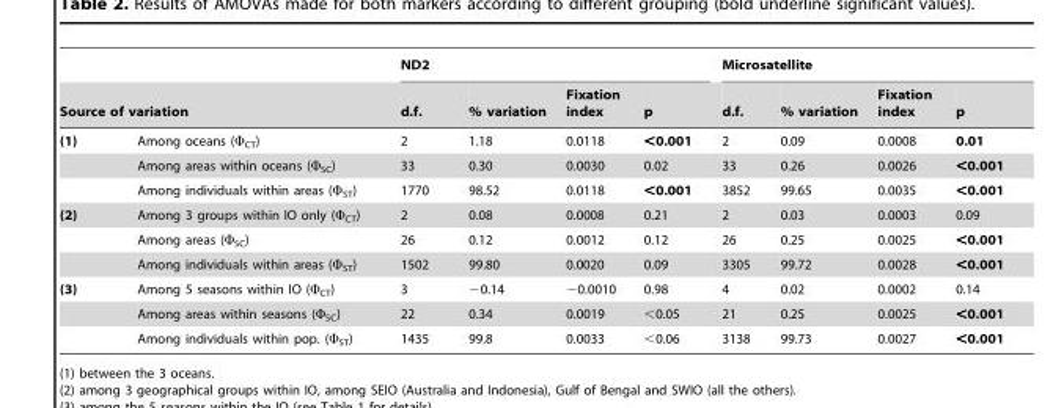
<table><thead><tr><td></td><td></td><td colspan="4">ND2</td><td colspan="4">Microsatellite</td></tr><tr><td colspan="2">Source of variation</td><td>d.f.</td><td>% variation</td><td>Fixation index</td><td>p</td><td>d.f.</td><td>% variation</td><td>Fixation index</td><td>p</td></tr></thead><tbody><tr><td rowspan="3">(1)</td><td>Among oceans (Φ<sub>CT</sub>)</td><td>2</td><td>1.18</td><td>0.0118</td><td>&lt;0.001</td><td>2</td><td>0.09</td><td>0.0008</td><td>0.01</td></tr><tr><td>Among areas within oceans (Φ<sub>SC</sub>)</td><td>33</td><td>0.30</td><td>0.0030</td><td>0.02</td><td>33</td><td>0.26</td><td>0.0026</td><td>&lt;0.001</td></tr><tr><td>Among individuals within areas (Φ<sub>ST</sub>)</td><td>1770</td><td>98.52</td><td>0.0118</td><td>&lt;0.001</td><td>3852</td><td>99.65</td><td>0.0035</td><td>&lt;0.001</td></tr><tr><td rowspan="3">(2)</td><td>Among 3 groups within IO only (Φ<sub>CT</sub>)</td><td>2</td><td>0.08</td><td>0.0008</td><td>0.21</td><td>2</td><td>0.03</td><td>0.0003</td><td>0.09</td></tr><tr><td>Among areas (Φ<sub>SC</sub>)</td><td>26</td><td>0.12</td><td>0.0012</td><td>0.12</td><td>26</td><td>0.25</td><td>0.0025</td><td>&lt;0.001</td></tr><tr><td>Among individuals within areas (Φ<sub>ST</sub>)</td><td>1502</td><td>99.80</td><td>0.0020</td><td>0.09</td><td>3305</td><td>99.72</td><td>0.0028</td><td>&lt;0.001</td></tr><tr><td rowspan="3">(3)</td><td>Among 5 seasons within IO (Φ<sub>CT</sub>)</td><td>3</td><td>−0.14</td><td>−0.0010</td><td>0.98</td><td>4</td><td>0.02</td><td>0.0002</td><td>0.14</td></tr><tr><td>Among areas within seasons (Φ<sub>SC</sub>)</td><td>22</td><td>0.34</td><td>0.0019</td><td>&lt;0.05</td><td>21</td><td>0.25</td><td>0.0025</td><td>&lt;0.001</td></tr><tr><td>Among individuals within pop. (Φ<sub>ST</sub>)</td><td>1435</td><td>99.8</td><td>0.0033</td><td>&lt;0.06</td><td>3138</td><td>99.73</td><td>0.0027</td><td>&lt;0.001</td></tr></tbody></table>